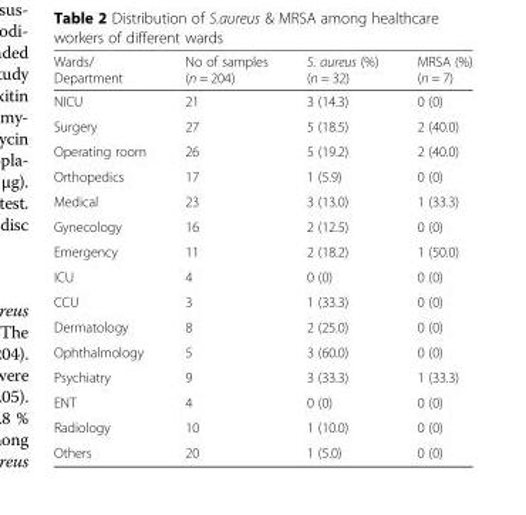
<table><thead><tr><td>Wards/ Department</td><td>No of samples (n = 204)</td><td>S. aureus (%) (n = 32)</td><td>MRSA (%) (n = 7)</td></tr></thead><tbody><tr><td>NICU</td><td>21</td><td>3 (14.3)</td><td>0 (0)</td></tr><tr><td>Surgery</td><td>27</td><td>5 (18.5)</td><td>2 (40.0)</td></tr><tr><td>Operating room</td><td>26</td><td>5 (19.2)</td><td>2 (40.0)</td></tr><tr><td>Orthopedics</td><td>17</td><td>1 (5.9)</td><td>0 (0)</td></tr><tr><td>Medical</td><td>23</td><td>3 (13.0)</td><td>1 (33.3)</td></tr><tr><td>Gynecology</td><td>16</td><td>2 (12.5)</td><td>0 (0)</td></tr><tr><td>Emergency</td><td>11</td><td>2 (18.2)</td><td>1 (50.0)</td></tr><tr><td>ICU</td><td>4</td><td>0 (0)</td><td>0 (0)</td></tr><tr><td>CCU</td><td>3</td><td>1 (33.3)</td><td>0 (0)</td></tr><tr><td>Dermatology</td><td>8</td><td>2 (25.0)</td><td>0 (0)</td></tr><tr><td>Ophthalmology</td><td>5</td><td>3 (60.0)</td><td>0 (0)</td></tr><tr><td>Psychiatry</td><td>9</td><td>3 (33.3)</td><td>1 (33.3)</td></tr><tr><td>ENT</td><td>4</td><td>0 (0)</td><td>0 (0)</td></tr><tr><td>Radiology</td><td>10</td><td>1 (10.0)</td><td>0 (0)</td></tr><tr><td>Others</td><td>20</td><td>1 (5.0)</td><td>0 (0)</td></tr></tbody></table>